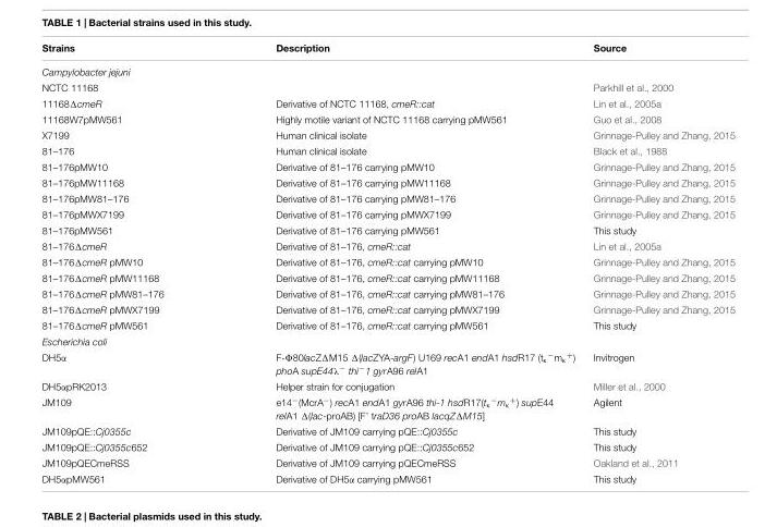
<table><thead><tr><td>Strains</td><td>Description</td><td>Source</td></tr></thead><tbody><tr><td colspan="3">Campylobacter jejuni</td></tr><tr><td>NCTC 11168</td><td></td><td>Parkhill et al., 2000</td></tr><tr><td>11168ΔcmeR</td><td>Derivative of NCTC 11168, cmeR::cat</td><td>Lin et al., 2005a</td></tr><tr><td>11168W7pMW561</td><td>Highly motile variant of NCTC 11168 carrying pMW561</td><td>Guo et al., 2008</td></tr><tr><td>X7199</td><td>Human clinical isolate</td><td>Grinnage-Pulley and Zhang, 2015</td></tr><tr><td>81–176</td><td>Human clinical isolate</td><td>Black et al., 1988</td></tr><tr><td>81–176pMW10</td><td>Derivative of 81–176 carrying pMW10</td><td>Grinnage-Pulley and Zhang, 2015</td></tr><tr><td>81–176pMW11168</td><td>Derivative of 81–176 carrying pMW11168</td><td>Grinnage-Pulley and Zhang, 2015</td></tr><tr><td>81–176pMW81–176</td><td>Derivative of 81–176 carrying pMW81–176</td><td>Grinnage-Pulley and Zhang, 2015</td></tr><tr><td>81–176pMWX7199</td><td>Derivative of 81–176 carrying pMWX7199</td><td>Grinnage-Pulley and Zhang, 2015</td></tr><tr><td>81–176pMW561</td><td>Derivative of 81–176 carrying pMW561</td><td>This study</td></tr><tr><td>81–176ΔcmeR</td><td>Derivative of 81–176, cmeR::cat</td><td>Lin et al., 2005a</td></tr><tr><td>81–176ΔcmeR pMW10</td><td>Derivative of 81–176, cmeR::cat carrying pMW10</td><td>Grinnage-Pulley and Zhang, 2015</td></tr><tr><td>81–176ΔcmeR pMW11168</td><td>Derivative of 81–176, cmeR::cat carrying pMW11168</td><td>Grinnage-Pulley and Zhang, 2015</td></tr><tr><td>81–176ΔcmeR pMW81–176</td><td>Derivative of 81–176, cmeR::cat carrying pMW81–176</td><td>Grinnage-Pulley and Zhang, 2015</td></tr><tr><td>81–176ΔcmeR pMWX7199</td><td>Derivative of 81–176, cmeR::cat carrying pMWX7199</td><td>Grinnage-Pulley and Zhang, 2015</td></tr><tr><td>81–176ΔcmeR pMW561</td><td>Derivative of 81–176, cmeR::cat carrying pMW561</td><td>This study</td></tr><tr><td colspan="3">Escherichia coli</td></tr><tr><td>DH5α</td><td>F-Φ80lacZΔM15 Δ(lacZYA-argF) U169 recA1 endA1 hsdR17 (t<sub>κ</sub><sup>−</sup>m<sub>κ</sub><sup>+</sup>) phoA supE44λ<sup>−</sup> thi<sup>−</sup>1 gyrA96 relA1</td><td>Invitrogen</td></tr><tr><td>DH5αpRK2013</td><td>Helper strain for conjugation</td><td>Miller et al., 2000</td></tr><tr><td>JM109</td><td>e14<sup>−</sup>(McrA<sup>−</sup>) recA1 endA1 gyrA96 thi-1 hsdR17(t<sub>κ</sub><sup>−</sup>m<sub>κ</sub><sup>+</sup>) supE44 relA1 Δ(lac-proAB) [F’ traD36 proAB lacqZΔM15]</td><td>Agilent</td></tr><tr><td>JM109pQE::Cj0355c</td><td>Derivative of JM109 carrying pQE::Cj0355c</td><td>This study</td></tr><tr><td>JM109pQE::Cj0355c652</td><td>Derivative of JM109 carrying pQE::Cj0355c652</td><td>This study</td></tr><tr><td>JM109pQECmeRSS</td><td>Derivative of JM109 carrying pQECmeRSS</td><td>Oakland et al., 2011</td></tr><tr><td>DH5αpMW561</td><td>Derivative of DH5α carrying pMW561</td><td>This study</td></tr></tbody></table>